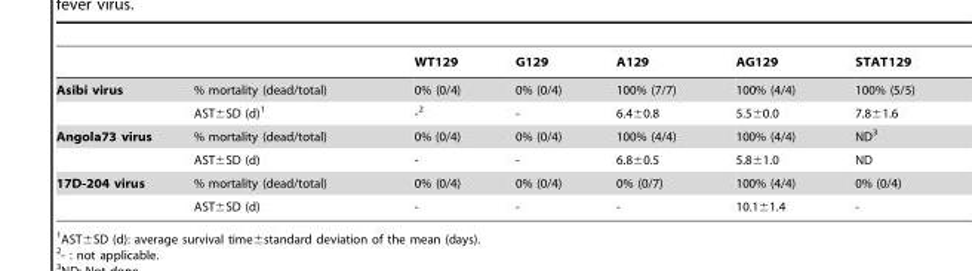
<table><thead><tr><td></td><td></td><td>WT129</td><td>G129</td><td>A129</td><td>AG129</td><td>STAT129</td></tr></thead><tbody><tr><td rowspan="2">Asibi virus</td><td>% mortality (dead/total)</td><td>0% (0/4)</td><td>0% (0/4)</td><td>100% (7/7)</td><td>100% (4/4)</td><td>100% (5/5)</td></tr><tr><td>AST±SD (d)<sup>1</sup></td><td>-2</td><td>-</td><td>6.4±0.8</td><td>5.5±0.0</td><td>7.8±1.6</td></tr><tr><td rowspan="2">Angola73 virus</td><td>% mortality (dead/total)</td><td>0% (0/4)</td><td>0% (0/4)</td><td>100% (4/4)</td><td>100% (4/4)</td><td>ND<sup>3</sup></td></tr><tr><td>AST±SD (d)</td><td>-</td><td>-</td><td>6.8±0.5</td><td>5.8±1.0</td><td>ND</td></tr><tr><td rowspan="2">17D-204 virus</td><td>% mortality (dead/total)</td><td>0% (0/4)</td><td>0% (0/4)</td><td>0% (0/7)</td><td>100% (4/4)</td><td>0% (0/4)</td></tr><tr><td>AST±SD (d)</td><td>-</td><td>-</td><td>-</td><td>10.1±1.4</td><td>-</td></tr></tbody></table>